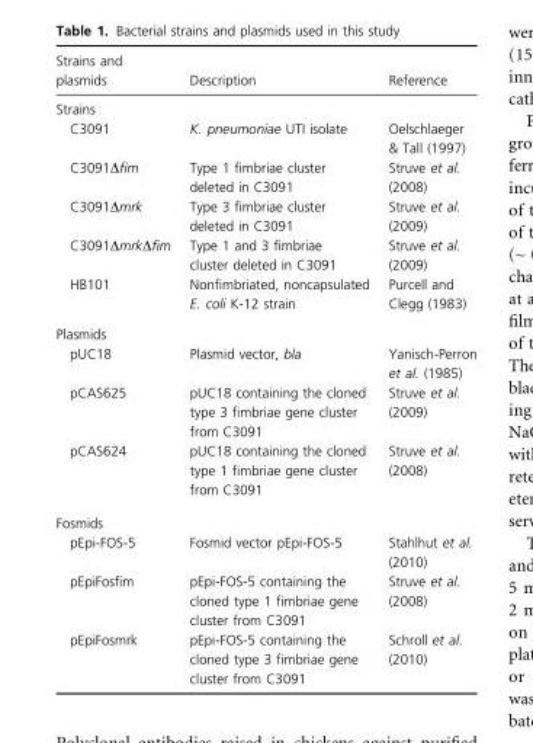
<table><thead><tr><td>Strains and plasmids</td><td>Description</td><td>Reference</td></tr></thead><tbody><tr><td colspan="3">Strains</td></tr><tr><td>C3091</td><td>K. pneumoniae UTI isolate</td><td>Oelschlaeger &amp; Tall (1997)</td></tr><tr><td>C3091Δfim</td><td>Type 1 fimbriae cluster deleted in C3091</td><td>Struve et al. (2008)</td></tr><tr><td>C3091Δmrk</td><td>Type 3 fimbriae cluster deleted in C3091</td><td>Struve et al. (2009)</td></tr><tr><td>C3091ΔmrkΔfim</td><td>Type 1 and 3 fimbriae cluster deleted in C3091</td><td>Struve et al. (2009)</td></tr><tr><td>HB101</td><td>Nonfimbriated, noncapsulated E. coli K-12 strain</td><td>Purcell and Clegg (1983)</td></tr><tr><td colspan="3">Plasmids</td></tr><tr><td>pUC18</td><td>Plasmid vector, bla</td><td>Yanisch-Perron et al. (1985)</td></tr><tr><td>pCAS625</td><td>pUC18 containing the cloned type 3 fimbriae gene cluster from C3091</td><td>Struve et al. (2009)</td></tr><tr><td>pCAS624</td><td>pUC18 containing the cloned type 1 fimbriae gene cluster from C3091</td><td>Struve et al. (2008)</td></tr><tr><td colspan="3">Fosmids</td></tr><tr><td>pEpi-FOS-5</td><td>Fosmid vector pEpi-FOS-5</td><td>Stahlhut et al. (2010)</td></tr><tr><td>pEpiFosfim</td><td>pEpi-FOS-5 containing the cloned type 1 fimbriae gene cluster from C3091</td><td>Struve et al. (2008)</td></tr><tr><td>pEpiFosmrk</td><td>pEpi-FOS-5 containing the cloned type 3 fimbriae gene cluster from C3091</td><td>Schroll et al. (2010)</td></tr></tbody></table>